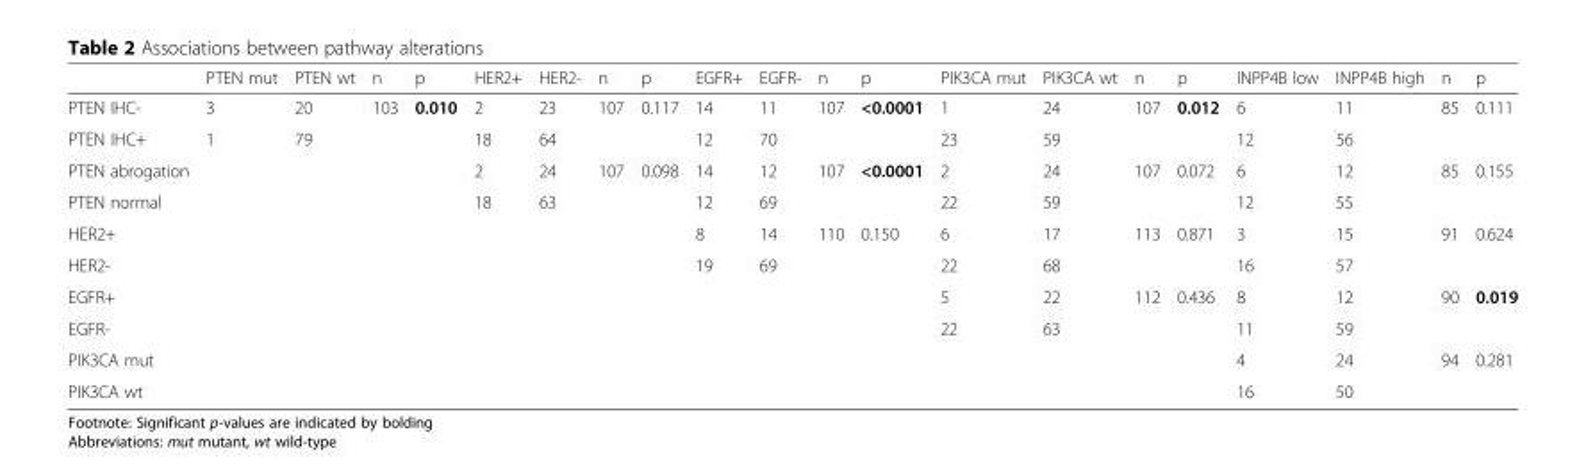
<table><thead><tr><td></td><td>PTEN mut</td><td>PTEN wt</td><td>n</td><td>p</td><td>HER2+</td><td>HER2-</td><td>n</td><td>p</td><td>EGFR+</td><td>EGFR-</td><td>n</td><td>p</td><td>PIK3CA mut</td><td>PIK3CA wt</td><td>n</td><td>p</td><td>INPP4B low</td><td>INPP4B high</td><td>n</td><td>p</td></tr></thead><tbody><tr><td>PTEN IHC-</td><td>3</td><td>20</td><td>103</td><td>0.010</td><td>2</td><td>23</td><td>107</td><td>0.117</td><td>14</td><td>11</td><td>107</td><td>&lt;0.0001</td><td>1</td><td>24</td><td>107</td><td>0.012</td><td>6</td><td>11</td><td>85</td><td>0.111</td></tr><tr><td>PTEN IHC+</td><td>1</td><td>79</td><td></td><td></td><td>18</td><td>64</td><td></td><td></td><td>12</td><td>70</td><td></td><td></td><td>23</td><td>59</td><td></td><td></td><td>12</td><td>56</td><td></td><td></td></tr><tr><td>PTEN abrogation</td><td></td><td></td><td></td><td></td><td>2</td><td>24</td><td>107</td><td>0.098</td><td>14</td><td>12</td><td>107</td><td>&lt;0.0001</td><td>2</td><td>24</td><td>107</td><td>0.072</td><td>6</td><td>12</td><td>85</td><td>0.155</td></tr><tr><td>PTEN normal</td><td></td><td></td><td></td><td></td><td>18</td><td>63</td><td></td><td></td><td>12</td><td>69</td><td></td><td></td><td>22</td><td>59</td><td></td><td></td><td>12</td><td>55</td><td></td><td></td></tr><tr><td>HER2+</td><td></td><td></td><td></td><td></td><td></td><td></td><td></td><td></td><td>8</td><td>14</td><td>110</td><td>0.150</td><td>6</td><td>17</td><td>113</td><td>0.871</td><td>3</td><td>15</td><td>91</td><td>0.624</td></tr><tr><td>HER2-</td><td></td><td></td><td></td><td></td><td></td><td></td><td></td><td></td><td>19</td><td>69</td><td></td><td></td><td>22</td><td>68</td><td></td><td></td><td>16</td><td>57</td><td></td><td></td></tr><tr><td>EGFR+</td><td></td><td></td><td></td><td></td><td></td><td></td><td></td><td></td><td></td><td></td><td></td><td></td><td>5</td><td>22</td><td>112</td><td>0.436</td><td>8</td><td>12</td><td>90</td><td>0.019</td></tr><tr><td>EGFR-</td><td></td><td></td><td></td><td></td><td></td><td></td><td></td><td></td><td></td><td></td><td></td><td></td><td>22</td><td>63</td><td></td><td></td><td>11</td><td>59</td><td></td><td></td></tr><tr><td>PIK3CA mut</td><td></td><td></td><td></td><td></td><td></td><td></td><td></td><td></td><td></td><td></td><td></td><td></td><td></td><td></td><td></td><td></td><td>4</td><td>24</td><td>94</td><td>0.281</td></tr><tr><td>PIK3CA wt</td><td></td><td></td><td></td><td></td><td></td><td></td><td></td><td></td><td></td><td></td><td></td><td></td><td></td><td></td><td></td><td></td><td>16</td><td>50</td><td></td><td></td></tr></tbody></table>